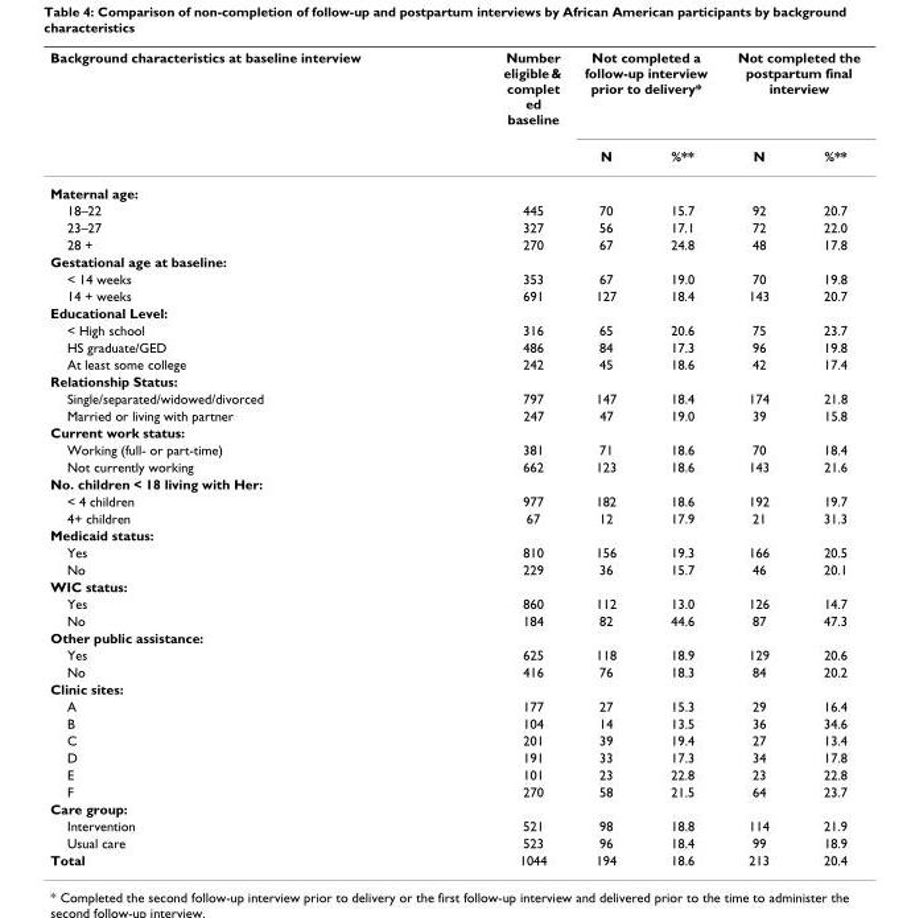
<table><thead><tr><td rowspan="2">Background characteristics at baseline interview</td><td rowspan="2">Number eligible &amp; complet ed baseline</td><td colspan="2">Not completed a follow-up interview prior to delivery*</td><td colspan="2">Not completed the postpartum final interview</td></tr><tr><td>N</td><td>%**</td><td>N</td><td>%**</td></tr></thead><tbody><tr><td colspan="6">Maternal age:</td></tr><tr><td>18–22</td><td>445</td><td>70</td><td>15.7</td><td>92</td><td>20.7</td></tr><tr><td>23–27</td><td>327</td><td>56</td><td>17.1</td><td>72</td><td>22.0</td></tr><tr><td>28 +</td><td>270</td><td>67</td><td>24.8</td><td>48</td><td>17.8</td></tr><tr><td colspan="6">Gestational age at baseline:</td></tr><tr><td>&lt; 14 weeks</td><td>353</td><td>67</td><td>19.0</td><td>70</td><td>19.8</td></tr><tr><td>14 + weeks</td><td>691</td><td>127</td><td>18.4</td><td>143</td><td>20.7</td></tr><tr><td colspan="6">Educational Level:</td></tr><tr><td>&lt; High school</td><td>316</td><td>65</td><td>20.6</td><td>75</td><td>23.7</td></tr><tr><td>HS graduate/GED</td><td>486</td><td>84</td><td>17.3</td><td>96</td><td>19.8</td></tr><tr><td>At least some college</td><td>242</td><td>45</td><td>18.6</td><td>42</td><td>17.4</td></tr><tr><td colspan="6">Relationship Status:</td></tr><tr><td>Single/separated/widowed/divorced</td><td>797</td><td>147</td><td>18.4</td><td>174</td><td>21.8</td></tr><tr><td>Married or living with partner</td><td>247</td><td>47</td><td>19.0</td><td>39</td><td>15.8</td></tr><tr><td colspan="6">Current work status:</td></tr><tr><td>Working (full- or part-time)</td><td>381</td><td>71</td><td>18.6</td><td>70</td><td>18.4</td></tr><tr><td>Not currently working</td><td>662</td><td>123</td><td>18.6</td><td>143</td><td>21.6</td></tr><tr><td colspan="6">No. children &lt; 18 living with Her:</td></tr><tr><td>&lt; 4 children</td><td>977</td><td>182</td><td>18.6</td><td>192</td><td>19.7</td></tr><tr><td>4+ children</td><td>67</td><td>12</td><td>17.9</td><td>21</td><td>31.3</td></tr><tr><td colspan="6">Medicaid status:</td></tr><tr><td>Yes</td><td>810</td><td>156</td><td>19.3</td><td>166</td><td>20.5</td></tr><tr><td>No</td><td>229</td><td>36</td><td>15.7</td><td>46</td><td>20.1</td></tr><tr><td colspan="6">WIC status:</td></tr><tr><td>Yes</td><td>860</td><td>112</td><td>13.0</td><td>126</td><td>14.7</td></tr><tr><td>No</td><td>184</td><td>82</td><td>44.6</td><td>87</td><td>47.3</td></tr><tr><td colspan="6">Other public assistance:</td></tr><tr><td>Yes</td><td>625</td><td>118</td><td>18.9</td><td>129</td><td>20.6</td></tr><tr><td>No</td><td>416</td><td>76</td><td>18.3</td><td>84</td><td>20.2</td></tr><tr><td colspan="6">Clinic sites:</td></tr><tr><td>A</td><td>177</td><td>27</td><td>15.3</td><td>29</td><td>16.4</td></tr><tr><td>B</td><td>104</td><td>14</td><td>13.5</td><td>36</td><td>34.6</td></tr><tr><td>C</td><td>201</td><td>39</td><td>19.4</td><td>27</td><td>13.4</td></tr><tr><td>D</td><td>191</td><td>33</td><td>17.3</td><td>34</td><td>17.8</td></tr><tr><td>E</td><td>101</td><td>23</td><td>22.8</td><td>23</td><td>22.8</td></tr><tr><td>F</td><td>270</td><td>58</td><td>21.5</td><td>64</td><td>23.7</td></tr><tr><td colspan="6">Care group:</td></tr><tr><td>Intervention</td><td>521</td><td>98</td><td>18.8</td><td>114</td><td>21.9</td></tr><tr><td>Usual care</td><td>523</td><td>96</td><td>18.4</td><td>99</td><td>18.9</td></tr><tr><td>Total</td><td>1044</td><td>194</td><td>18.6</td><td>213</td><td>20.4</td></tr></tbody></table>